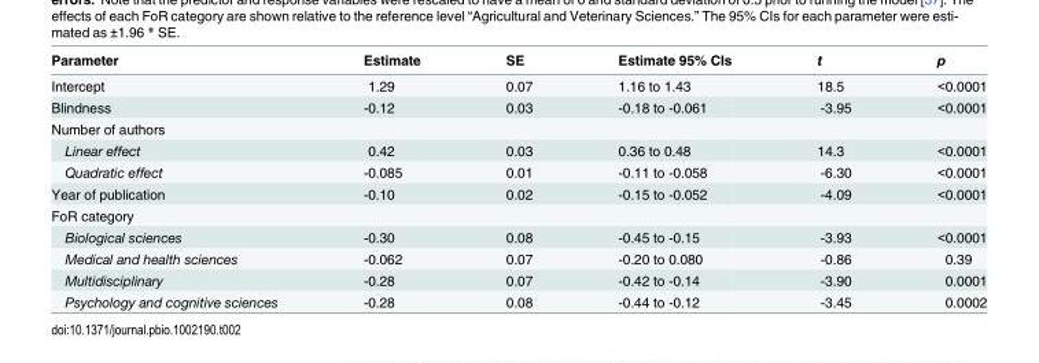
<table><thead><tr><td>Parameter</td><td>Estimate</td><td>SE</td><td>Estimate 95% CIs</td><td>t</td><td>p</td></tr></thead><tbody><tr><td>Intercept</td><td>1.29</td><td>0.07</td><td>1.16 to 1.43</td><td>18.5</td><td>&lt;0.0001</td></tr><tr><td>Blindness</td><td>-0.12</td><td>0.03</td><td>-0.18 to -0.061</td><td>-3.95</td><td>&lt;0.0001</td></tr><tr><td colspan="6">Number of authors</td></tr><tr><td>Linear effect</td><td>0.42</td><td>0.03</td><td>0.36 to 0.48</td><td>14.3</td><td>&lt;0.0001</td></tr><tr><td>Quadratic effect</td><td>-0.085</td><td>0.01</td><td>-0.11 to -0.058</td><td>-6.30</td><td>&lt;0.0001</td></tr><tr><td>Year of publication</td><td>-0.10</td><td>0.02</td><td>-0.15 to -0.052</td><td>-4.09</td><td>&lt;0.0001</td></tr><tr><td colspan="6">FoR category</td></tr><tr><td>Biological sciences</td><td>-0.30</td><td>0.08</td><td>-0.45 to -0.15</td><td>-3.93</td><td>&lt;0.0001</td></tr><tr><td>Medical and health sciences</td><td>-0.062</td><td>0.07</td><td>-0.20 to 0.080</td><td>-0.86</td><td>0.39</td></tr><tr><td>Multidisciplinary</td><td>-0.28</td><td>0.07</td><td>-0.42 to -0.14</td><td>-3.90</td><td>0.0001</td></tr><tr><td>Psychology and cognitive sciences</td><td>-0.28</td><td>0.08</td><td>-0.44 to -0.12</td><td>-3.45</td><td>0.0002</td></tr></tbody></table>